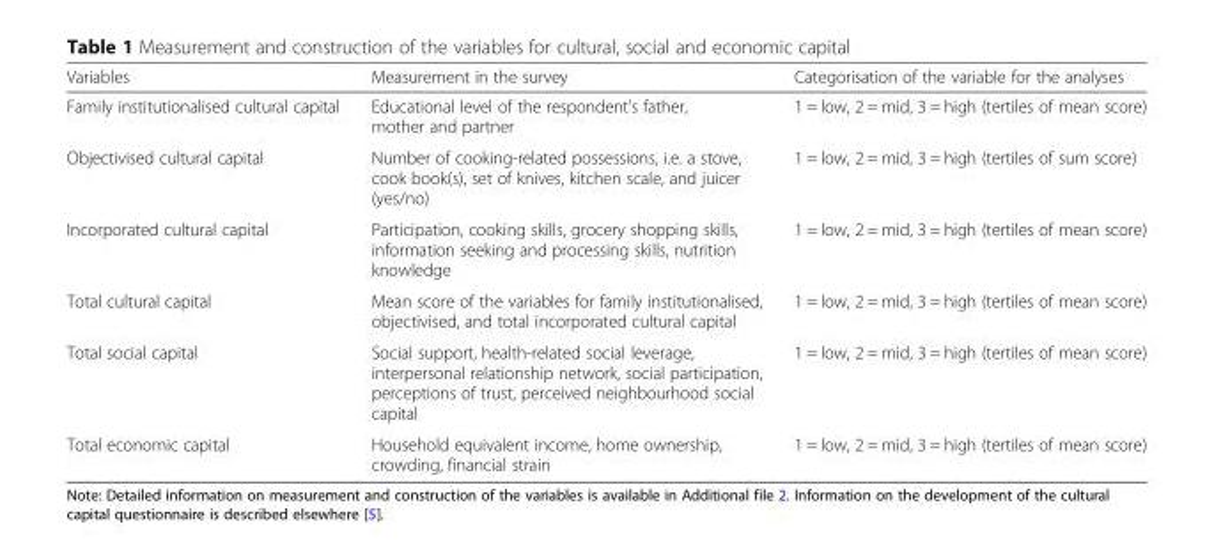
<table><thead><tr><td>Variables</td><td>Measurement in the survey</td><td>Categorisation of the variable for the analyses</td></tr></thead><tbody><tr><td>Family institutionalised cultural capital</td><td>Educational level of the respondent’s father, mother and partner</td><td>1 = low, 2 = mid, 3 = high (tertiles of mean score)</td></tr><tr><td>Objectivised cultural capital</td><td>Number of cooking-related possessions, i.e. a stove, cook book(s), set of knives, kitchen scale, and juicer (yes/no)</td><td>1 = low, 2 = mid, 3 = high (tertiles of sum score)</td></tr><tr><td>Incorporated cultural capital</td><td>Participation, cooking skills, grocery shopping skills, information seeking and processing skills, nutrition knowledge</td><td>1 = low, 2 = mid, 3 = high (tertiles of mean score)</td></tr><tr><td>Total cultural capital</td><td>Mean score of the variables for family institutionalised, objectivised, and total incorporated cultural capital</td><td>1 = low, 2 = mid, 3 = high (tertiles of mean score)</td></tr><tr><td>Total social capital</td><td>Social support, health-related social leverage, interpersonal relationship network, social participation, perceptions of trust, perceived neighbourhood social capital</td><td>1 = low, 2 = mid, 3 = high (tertiles of mean score)</td></tr><tr><td>Total economic capital</td><td>Household equivalent income, home ownership, crowding, financial strain</td><td>1 = low, 2 = mid, 3 = high (tertiles of mean score)</td></tr></tbody></table>